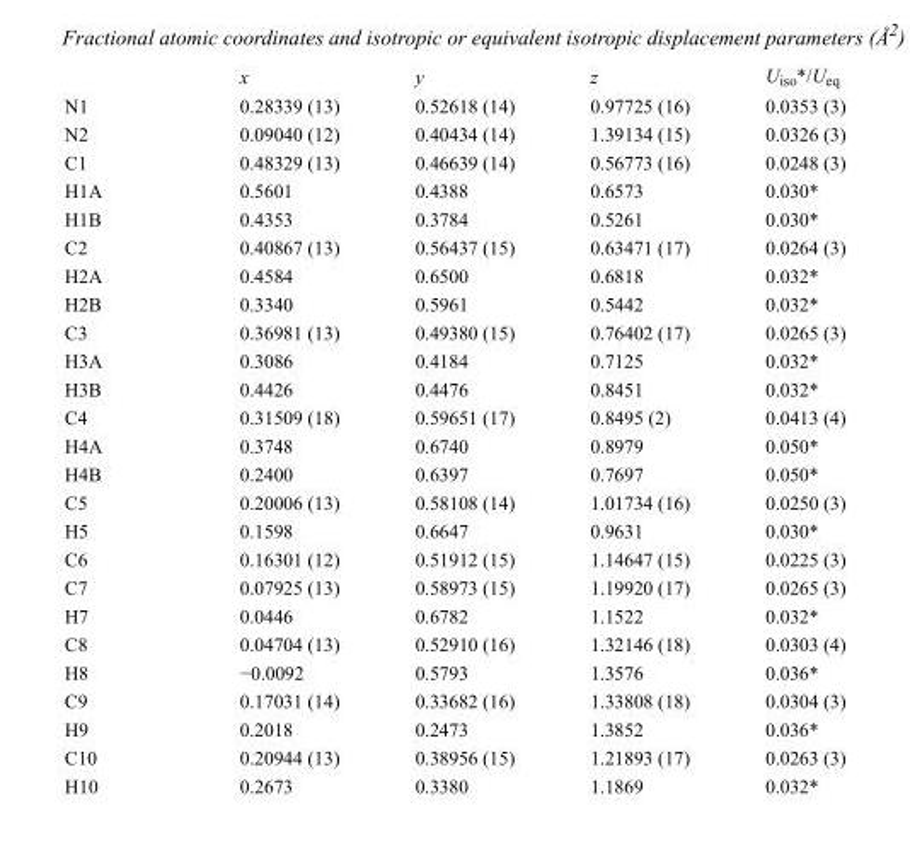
<table><thead><tr><td></td><td>x</td><td>y</td><td>z</td><td>U<sub>iso</sub>*/U<sub>eq</sub></td></tr></thead><tbody><tr><td>N1</td><td>0.28339 (13)</td><td>0.52618 (14)</td><td>0.97725 (16)</td><td>0.0353 (3)</td></tr><tr><td>N2</td><td>0.09040 (12)</td><td>0.40434 (14)</td><td>1.39134 (15)</td><td>0.0326 (3)</td></tr><tr><td>C1</td><td>0.48329 (13)</td><td>0.46639 (14)</td><td>0.56773 (16)</td><td>0.0248 (3)</td></tr><tr><td>H1A</td><td>0.5601</td><td>0.4388</td><td>0.6573</td><td>0.030*</td></tr><tr><td>H1B</td><td>0.4353</td><td>0.3784</td><td>0.5261</td><td>0.030*</td></tr><tr><td>C2</td><td>0.40867 (13)</td><td>0.56437 (15)</td><td>0.63471 (17)</td><td>0.0264 (3)</td></tr><tr><td>H2A</td><td>0.4584</td><td>0.6500</td><td>0.6818</td><td>0.032*</td></tr><tr><td>H2B</td><td>0.3340</td><td>0.5961</td><td>0.5442</td><td>0.032*</td></tr><tr><td>C3</td><td>0.36981 (13)</td><td>0.49380 (15)</td><td>0.76402 (17)</td><td>0.0265 (3)</td></tr><tr><td>H3A</td><td>0.3086</td><td>0.4184</td><td>0.7125</td><td>0.032*</td></tr><tr><td>H3B</td><td>0.4426</td><td>0.4476</td><td>0.8451</td><td>0.032*</td></tr><tr><td>C4</td><td>0.31509 (18)</td><td>0.59651 (17)</td><td>0.8495 (2)</td><td>0.0413 (4)</td></tr><tr><td>H4A</td><td>0.3748</td><td>0.6740</td><td>0.8979</td><td>0.050*</td></tr><tr><td>H4B</td><td>0.2400</td><td>0.6397</td><td>0.7697</td><td>0.050*</td></tr><tr><td>C5</td><td>0.20006 (13)</td><td>0.58108 (14)</td><td>1.01734 (16)</td><td>0.0250 (3)</td></tr><tr><td>H5</td><td>0.1598</td><td>0.6647</td><td>0.9631</td><td>0.030*</td></tr><tr><td>C6</td><td>0.16301 (12)</td><td>0.51912 (15)</td><td>1.14647 (15)</td><td>0.0225 (3)</td></tr><tr><td>C7</td><td>0.07925 (13)</td><td>0.58973 (15)</td><td>1.19920 (17)</td><td>0.0265 (3)</td></tr><tr><td>H7</td><td>0.0446</td><td>0.6782</td><td>1.1522</td><td>0.032*</td></tr><tr><td>C8</td><td>0.04704 (13)</td><td>0.52910 (16)</td><td>1.32146 (18)</td><td>0.0303 (4)</td></tr><tr><td>H8</td><td>−0.0092</td><td>0.5793</td><td>1.3576</td><td>0.036*</td></tr><tr><td>C9</td><td>0.17031 (14)</td><td>0.33682 (16)</td><td>1.33808 (18)</td><td>0.0304 (3)</td></tr><tr><td>H9</td><td>0.2018</td><td>0.2473</td><td>1.3852</td><td>0.036*</td></tr><tr><td>C10</td><td>0.20944 (13)</td><td>0.38956 (15)</td><td>1.21893 (17)</td><td>0.0263 (3)</td></tr><tr><td>H10</td><td>0.2673</td><td>0.3380</td><td>1.1869</td><td>0.032*</td></tr></tbody></table>